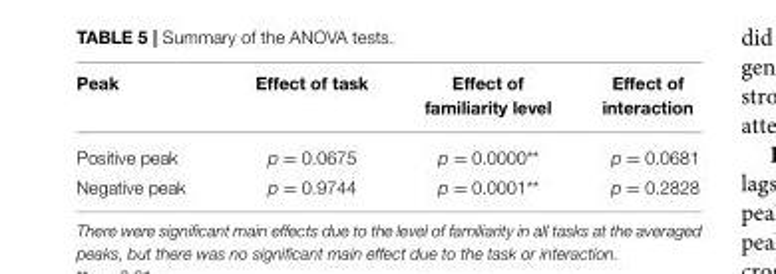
<table><thead><tr><td>Peak</td><td>Effect of task</td><td>Effect of familiarity level</td><td>Effect of interaction</td></tr></thead><tbody><tr><td>Positive peak</td><td>p = 0.0675</td><td>p = 0.0000**</td><td>p = 0.0681</td></tr><tr><td>Negative peak</td><td>p = 0.9744</td><td>p = 0.0001**</td><td>p = 0.2828</td></tr></tbody></table>